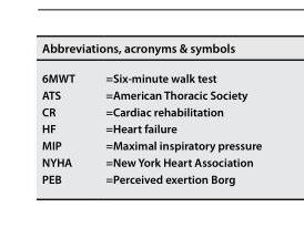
<table><thead><tr><td colspan="2">Abbreviations, acronyms &amp; symbols</td></tr><tr><td>6MWT</td><td>=Six-minute walk test</td></tr></thead><tbody><tr><td>ATS</td><td>=American Thoracic Society</td></tr><tr><td>CR</td><td>=Cardiac rehabilitation</td></tr><tr><td>HF</td><td>=Heart failure</td></tr><tr><td>MIP</td><td>=Maximal inspiratory pressure</td></tr><tr><td>NYHA</td><td>=New York Heart Association</td></tr><tr><td>PEB</td><td>=Perceived exertion Borg</td></tr></tbody></table>